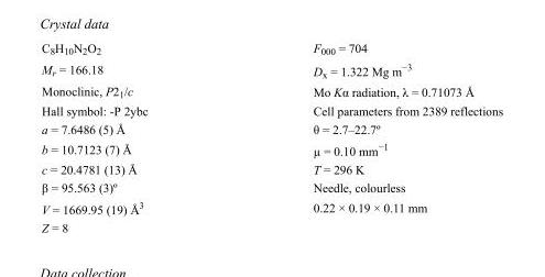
<table><tbody><tr><td>C<sub>8</sub>H<sub>10</sub>N<sub>2</sub>O<sub>2</sub></td><td>F000 = 704</td></tr><tr><td>M<sub>r</sub> = 166.18</td><td>D<sub>x</sub> = 1.322 Mg m<sup>−3</sup></td></tr><tr><td>Monoclinic, P2<sub>1</sub>/c</td><td>Mo Kα radiation, λ = 0.71073 Å</td></tr><tr><td>Hall symbol: -P 2ybc</td><td>Cell parameters from 2389 reflections</td></tr><tr><td>a = 7.6486 (5) Å</td><td>θ = 2.7–22.7º</td></tr><tr><td>b = 10.7123 (7) Å</td><td>µ = 0.10 mm<sup>−1</sup></td></tr><tr><td>c = 20.4781 (13) Å</td><td>T = 296 K</td></tr><tr><td>β = 95.563 (3)º</td><td>Needle, colourless</td></tr><tr><td>V = 1669.95 (19) Å<sup>3</sup></td><td>0.22 × 0.19 × 0.11 mm</td></tr><tr><td>Z = 8</td><td></td></tr></tbody></table>